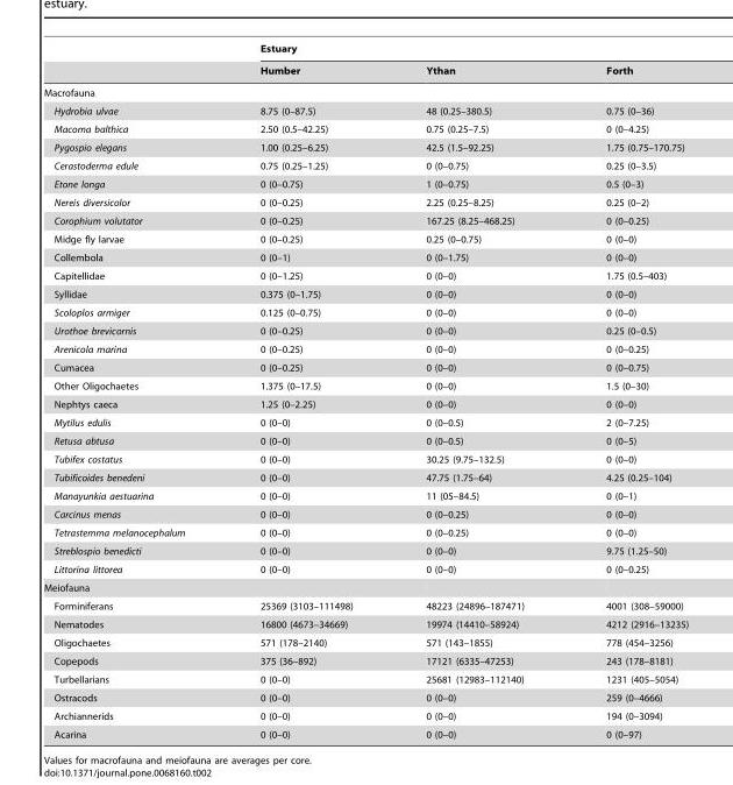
<table><thead><tr><td rowspan="2"></td><td colspan="3">Estuary</td></tr><tr><td>Humber</td><td>Ythan</td><td>Forth</td></tr></thead><tbody><tr><td colspan="4">Macrofauna</td></tr><tr><td>Hydrobia ulvae</td><td>8.75 (0–87.5)</td><td>48 (0.25–380.5)</td><td>0.75 (0–36)</td></tr><tr><td>Macoma balthica</td><td>2.50 (0.5–42.25)</td><td>0.75 (0.25–7.5)</td><td>0 (0–4.25)</td></tr><tr><td>Pygospio elegans</td><td>1.00 (0.25–6.25)</td><td>42.5 (1.5–92.25)</td><td>1.75 (0.75–170.75)</td></tr><tr><td>Cerastoderma edule</td><td>0.75 (0.25–1.25)</td><td>0 (0–0.75)</td><td>0.25 (0–3.5)</td></tr><tr><td>Etone longa</td><td>0 (0–0.75)</td><td>1 (0–0.75)</td><td>0.5 (0–3)</td></tr><tr><td>Nereis diversicolor</td><td>0 (0–0.25)</td><td>2.25 (0.25–8.25)</td><td>0.25 (0–2)</td></tr><tr><td>Corophium volutator</td><td>0 (0–0.25)</td><td>167.25 (8.25–468.25)</td><td>0 (0–0.25)</td></tr><tr><td>Midge fly larvae</td><td>0 (0–0.25)</td><td>0.25 (0–0.75)</td><td>0 (0–0)</td></tr><tr><td>Collembola</td><td>0 (0–1)</td><td>0 (0–1.75)</td><td>0 (0–0)</td></tr><tr><td>Capitellidae</td><td>0 (0–1.25)</td><td>0 (0–0)</td><td>1.75 (0.5–403)</td></tr><tr><td>Syllidae</td><td>0.375 (0–1.75)</td><td>0 (0–0)</td><td>0 (0–0)</td></tr><tr><td>Scoloplos armiger</td><td>0.125 (0–0.75)</td><td>0 (0–0)</td><td>0 (0–0)</td></tr><tr><td>Urothoe brevicornis</td><td>0 (0–0.25)</td><td>0 (0–0)</td><td>0.25 (0–0.5)</td></tr><tr><td>Arenicola marina</td><td>0 (0–0.25)</td><td>0 (0–0)</td><td>0 (0–0.25)</td></tr><tr><td>Cumacea</td><td>0 (0–0.25)</td><td>0 (0–0)</td><td>0 (0–0.75)</td></tr><tr><td>Other Oligochaetes</td><td>1.375 (0–17.5)</td><td>0 (0–0)</td><td>1.5 (0–30)</td></tr><tr><td>Nephtys caeca</td><td>1.25 (0–2.25)</td><td>0 (0–0)</td><td>0 (0–0)</td></tr><tr><td>Mytilus edulis</td><td>0 (0–0)</td><td>0 (0–0.5)</td><td>2 (0–7.25)</td></tr><tr><td>Retusa abtusa</td><td>0 (0–0)</td><td>0 (0–0.5)</td><td>0 (0–5)</td></tr><tr><td>Tubifex costatus</td><td>0 (0–0)</td><td>30.25 (9.75–132.5)</td><td>0 (0–0)</td></tr><tr><td>Tubificoides benedeni</td><td>0 (0–0)</td><td>47.75 (1.75–64)</td><td>4.25 (0.25–104)</td></tr><tr><td>Manayunkia aestuarina</td><td>0 (0–0)</td><td>11 (05–84.5)</td><td>0 (0–1)</td></tr><tr><td>Carcinus menas</td><td>0 (0–0)</td><td>0 (0–0.25)</td><td>0 (0–0)</td></tr><tr><td>Tetrastemma melanocephalum</td><td>0 (0–0)</td><td>0 (0–0.25)</td><td>0 (0–0)</td></tr><tr><td>Streblospio benedicti</td><td>0 (0–0)</td><td>0 (0–0)</td><td>9.75 (1.25–50)</td></tr><tr><td>Littorina littorea</td><td>0 (0–0)</td><td>0 (0–0)</td><td>0 (0–0.25)</td></tr><tr><td colspan="4">Meiofauna</td></tr><tr><td>Forminiferans</td><td>25369 (3103–111498)</td><td>48223 (24896–187471)</td><td>4001 (308–59000)</td></tr><tr><td>Nematodes</td><td>16800 (4673–34669)</td><td>19974 (14410–58924)</td><td>4212 (2916–13235)</td></tr><tr><td>Oligochaetes</td><td>571 (178–2140)</td><td>571 (143–1855)</td><td>778 (454–3256)</td></tr><tr><td>Copepods</td><td>375 (36–892)</td><td>17121 (6335–47253)</td><td>243 (178–8181)</td></tr><tr><td>Turbellarians</td><td>0 (0–0)</td><td>25681 (12983–112140)</td><td>1231 (405–5054)</td></tr><tr><td>Ostracods</td><td>0 (0–0)</td><td>0 (0–0)</td><td>259 (0–4666)</td></tr><tr><td>Archiannerids</td><td>0 (0–0)</td><td>0 (0–0)</td><td>194 (0–3094)</td></tr><tr><td>Acarina</td><td>0 (0–0)</td><td>0 (0–0)</td><td>0 (0–97)</td></tr></tbody></table>